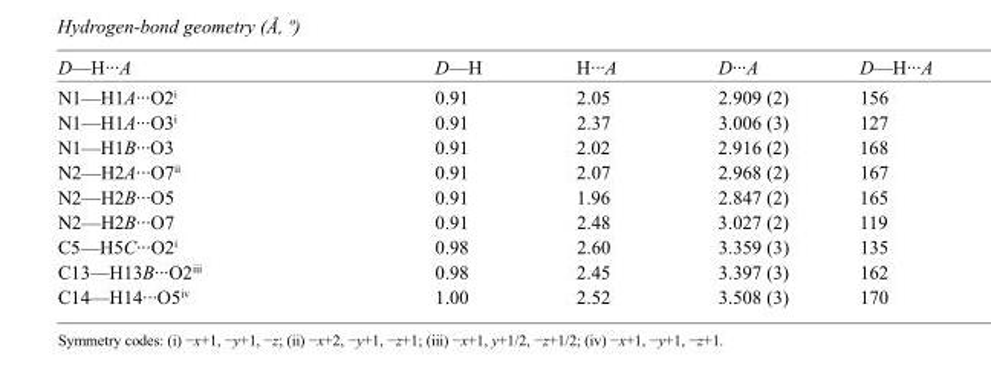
<table><tbody><tr><td>D—H···A</td><td>D—H</td><td>H···A</td><td>D···A</td><td>D—H···A</td></tr><tr><td>N1—H1A···O2<sup>i</sup></td><td>0.91</td><td>2.05</td><td>2.909 (2)</td><td>156</td></tr><tr><td>N1—H1A···O3<sup>i</sup></td><td>0.91</td><td>2.37</td><td>3.006 (3)</td><td>127</td></tr><tr><td>N1—H1B···O3</td><td>0.91</td><td>2.02</td><td>2.916 (2)</td><td>168</td></tr><tr><td>N2—H2A···O7<sup>ii</sup></td><td>0.91</td><td>2.07</td><td>2.968 (2)</td><td>167</td></tr><tr><td>N2—H2B···O5</td><td>0.91</td><td>1.96</td><td>2.847 (2)</td><td>165</td></tr><tr><td>N2—H2B···O7</td><td>0.91</td><td>2.48</td><td>3.027 (2)</td><td>119</td></tr><tr><td>C5—H5C···O2<sup>i</sup></td><td>0.98</td><td>2.60</td><td>3.359 (3)</td><td>135</td></tr><tr><td>C13—H13B···O2<sup>iii</sup></td><td>0.98</td><td>2.45</td><td>3.397 (3)</td><td>162</td></tr><tr><td>C14—H14···O5<sup>iv</sup></td><td>1.00</td><td>2.52</td><td>3.508 (3)</td><td>170</td></tr></tbody></table>